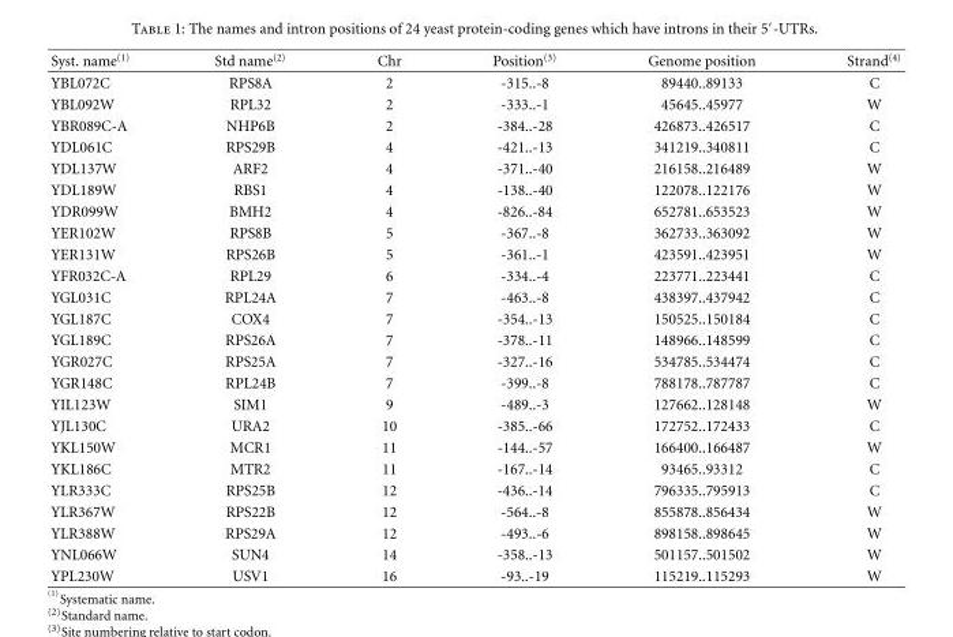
<table><thead><tr><td>Syst. name<sup>(1)</sup></td><td>Std name<sup>(2)</sup></td><td>Chr</td><td>Position<sup>(3)</sup></td><td>Genome position</td><td>Strand<sup>(4)</sup></td></tr></thead><tbody><tr><td>YBL072C</td><td>RPS8A</td><td>2</td><td>-315..-8</td><td>89440..89133</td><td>C</td></tr><tr><td>YBL092W</td><td>RPL32</td><td>2</td><td>-333..-1</td><td>45645..45977</td><td>W</td></tr><tr><td>YBR089C-A</td><td>NHP6B</td><td>2</td><td>-384..-28</td><td>426873..426517</td><td>C</td></tr><tr><td>YDL061C</td><td>RPS29B</td><td>4</td><td>-421..-13</td><td>341219..340811</td><td>C</td></tr><tr><td>YDL137W</td><td>ARF2</td><td>4</td><td>-371..-40</td><td>216158..216489</td><td>W</td></tr><tr><td>YDL189W</td><td>RBS1</td><td>4</td><td>-138..-40</td><td>122078..122176</td><td>W</td></tr><tr><td>YDR099W</td><td>BMH2</td><td>4</td><td>-826..-84</td><td>652781..653523</td><td>W</td></tr><tr><td>YER102W</td><td>RPS8B</td><td>5</td><td>-367..-8</td><td>362733..363092</td><td>W</td></tr><tr><td>YER131W</td><td>RPS26B</td><td>5</td><td>-361..-1</td><td>423591..423951</td><td>W</td></tr><tr><td>YFR032C-A</td><td>RPL29</td><td>6</td><td>-334..-4</td><td>223771..223441</td><td>C</td></tr><tr><td>YGL031C</td><td>RPL24A</td><td>7</td><td>-463..-8</td><td>438397..437942</td><td>C</td></tr><tr><td>YGL187C</td><td>COX4</td><td>7</td><td>-354..-13</td><td>150525..150184</td><td>C</td></tr><tr><td>YGL189C</td><td>RPS26A</td><td>7</td><td>-378..-11</td><td>148966..148599</td><td>C</td></tr><tr><td>YGR027C</td><td>RPS25A</td><td>7</td><td>-327..-16</td><td>534785..534474</td><td>C</td></tr><tr><td>YGR148C</td><td>RPL24B</td><td>7</td><td>-399..-8</td><td>788178..787787</td><td>C</td></tr><tr><td>YIL123W</td><td>SIM1</td><td>9</td><td>-489..-3</td><td>127662..128148</td><td>W</td></tr><tr><td>YJL130C</td><td>URA2</td><td>10</td><td>-385..-66</td><td>172752..172433</td><td>C</td></tr><tr><td>YKL150W</td><td>MCR1</td><td>11</td><td>-144..-57</td><td>166400..166487</td><td>W</td></tr><tr><td>YKL186C</td><td>MTR2</td><td>11</td><td>-167..-14</td><td>93465..93312</td><td>C</td></tr><tr><td>YLR333C</td><td>RPS25B</td><td>12</td><td>-436..-14</td><td>796335..795913</td><td>C</td></tr><tr><td>YLR367W</td><td>RPS22B</td><td>12</td><td>-564..-8</td><td>855878..856434</td><td>W</td></tr><tr><td>YLR388W</td><td>RPS29A</td><td>12</td><td>-493..-6</td><td>898158..898645</td><td>W</td></tr><tr><td>YNL066W</td><td>SUN4</td><td>14</td><td>-358..-13</td><td>501157..501502</td><td>W</td></tr><tr><td>YPL230W</td><td>USV1</td><td>16</td><td>-93..-19</td><td>115219..115293</td><td>W</td></tr></tbody></table>